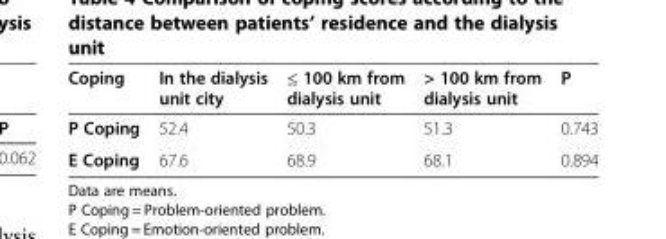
<table><thead><tr><td>Coping</td><td>In the dialysis unit city</td><td>≤ 100 km from dialysis unit</td><td>&gt; 100 km from dialysis unit</td><td>P</td></tr></thead><tbody><tr><td>P Coping</td><td>52.4</td><td>50.3</td><td>51.3</td><td>0.743</td></tr><tr><td>E Coping</td><td>67.6</td><td>68.9</td><td>68.1</td><td>0.894</td></tr></tbody></table>